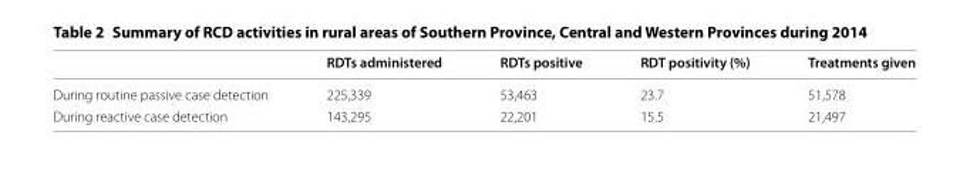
<table><thead><tr><td></td><td>RDTs administered</td><td>RDTs positive</td><td>RDT positivity (%)</td><td>Treatments given</td></tr></thead><tbody><tr><td>During routine passive case detection</td><td>225,339</td><td>53,463</td><td>23.7</td><td>51,578</td></tr><tr><td>During reactive case detection</td><td>143,295</td><td>22,201</td><td>15.5</td><td>21,497</td></tr></tbody></table>